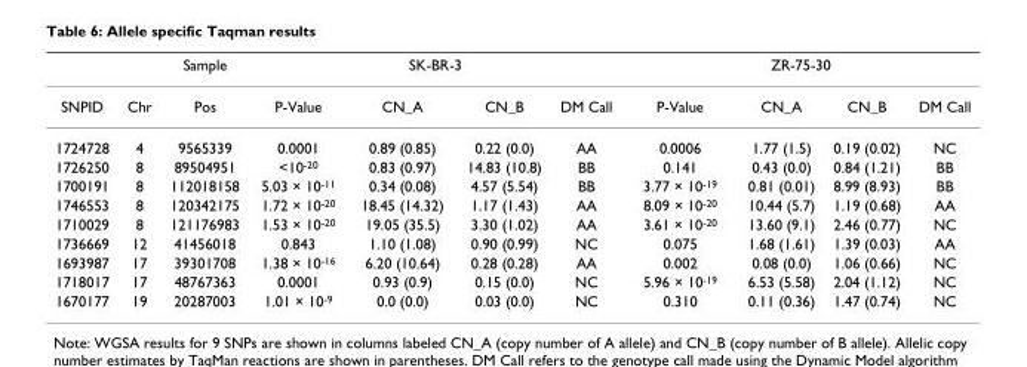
<table><thead><tr><td rowspan="2">SNPID</td><td rowspan="2">Chr</td><td rowspan="2">Sample Pos</td><td colspan="4">SK-BR-3</td><td colspan="4">ZR-75-30</td></tr><tr><td>P-Value</td><td>CN_A</td><td>CN_B</td><td>DM Call</td><td>P-Value</td><td>CN_A</td><td>CN_B</td><td>DM Call</td></tr></thead><tbody><tr><td>1724728</td><td>4</td><td>9565339</td><td>0.0001</td><td>0.89 (0.85)</td><td>0.22 (0.0)</td><td>AA</td><td>0.0006</td><td>1.77 (1.5)</td><td>0.19 (0.02)</td><td>NC</td></tr><tr><td>1726250</td><td>8</td><td>89504951</td><td>&lt;10<sup>-20</sup></td><td>0.83 (0.97)</td><td>14.83 (10.8)</td><td>BB</td><td>0.141</td><td>0.43 (0.0)</td><td>0.84 (1.21)</td><td>BB</td></tr><tr><td>1700191</td><td>8</td><td>112018158</td><td>5.03 × 10<sup>-11</sup></td><td>0.34 (0.08)</td><td>4.57 (5.54)</td><td>BB</td><td>3.77 × 10<sup>-19</sup></td><td>0.81 (0.01)</td><td>8.99 (8.93)</td><td>BB</td></tr><tr><td>1746553</td><td>8</td><td>120342175</td><td>1.72 × 10<sup>-20</sup></td><td>18.45 (14.32)</td><td>1.17 (1.43)</td><td>AA</td><td>8.09 × 10<sup>-20</sup></td><td>10.44 (5.7)</td><td>1.19 (0.68)</td><td>AA</td></tr><tr><td>1710029</td><td>8</td><td>121176983</td><td>1.53 × 10<sup>-20</sup></td><td>19.05 (35.5)</td><td>3.30 (1.02)</td><td>AA</td><td>3.61 × 10<sup>-20</sup></td><td>13.60 (9.1)</td><td>2.46 (0.77)</td><td>NC</td></tr><tr><td>1736669</td><td>12</td><td>41456018</td><td>0.843</td><td>1.10 (1.08)</td><td>0.90 (0.99)</td><td>NC</td><td>0.075</td><td>1.68 (1.61)</td><td>1.39 (0.03)</td><td>AA</td></tr><tr><td>1693987</td><td>17</td><td>39301708</td><td>1.38 × 10<sup>-16</sup></td><td>6.20 (10.64)</td><td>0.28 (0.28)</td><td>AA</td><td>0.002</td><td>0.08 (0.0)</td><td>1.06 (0.66)</td><td>NC</td></tr><tr><td>1718017</td><td>17</td><td>48767363</td><td>0.0001</td><td>0.93 (0.9)</td><td>0.15 (0.0)</td><td>NC</td><td>5.96 × 10<sup>-19</sup></td><td>6.53 (5.58)</td><td>2.04 (1.12)</td><td>NC</td></tr><tr><td>1670177</td><td>19</td><td>20287003</td><td>1.01 × 10<sup>-9</sup></td><td>0.0 (0.0)</td><td>0.03 (0.0)</td><td>NC</td><td>0.310</td><td>0.11 (0.36)</td><td>1.47 (0.74)</td><td>NC</td></tr></tbody></table>